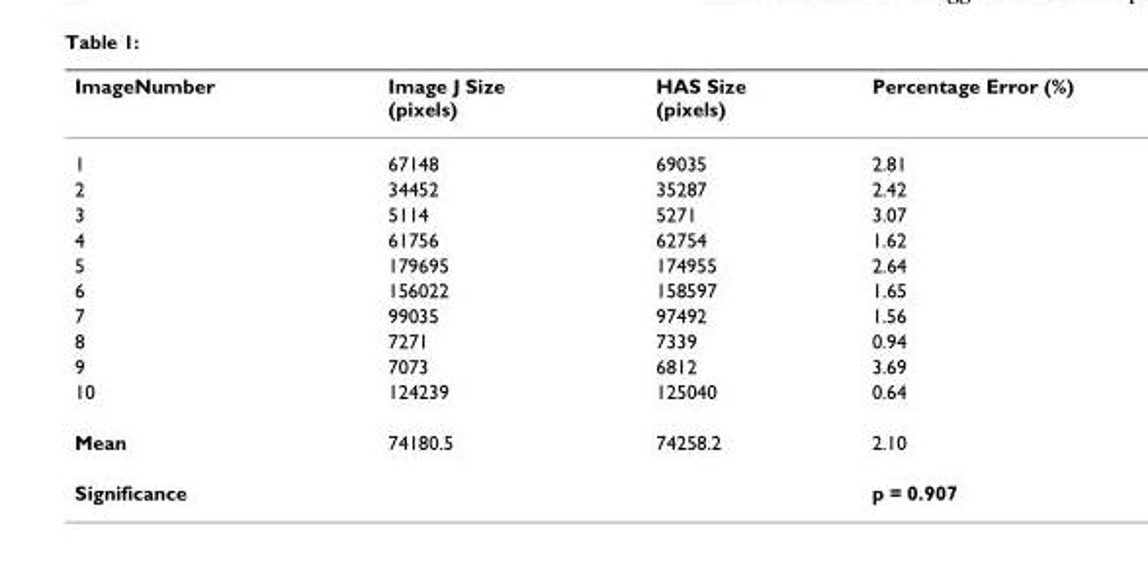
<table><thead><tr><td>ImageNumber</td><td>Image J Size (pixels)</td><td>HAS Size (pixels)</td><td>Percentage Error (%)</td></tr></thead><tbody><tr><td>1</td><td>67148</td><td>69035</td><td>2.81</td></tr><tr><td>2</td><td>34452</td><td>35287</td><td>2.42</td></tr><tr><td>3</td><td>5114</td><td>5271</td><td>3.07</td></tr><tr><td>4</td><td>61756</td><td>62754</td><td>1.62</td></tr><tr><td>5</td><td>179695</td><td>174955</td><td>2.64</td></tr><tr><td>6</td><td>156022</td><td>158597</td><td>1.65</td></tr><tr><td>7</td><td>99035</td><td>97492</td><td>1.56</td></tr><tr><td>8</td><td>7271</td><td>7339</td><td>0.94</td></tr><tr><td>9</td><td>7073</td><td>6812</td><td>3.69</td></tr><tr><td>10</td><td>124239</td><td>125040</td><td>0.64</td></tr><tr><td>Mean</td><td>74180.5</td><td>74258.2</td><td>2.10</td></tr><tr><td>Significance</td><td></td><td></td><td>p = 0.907</td></tr></tbody></table>